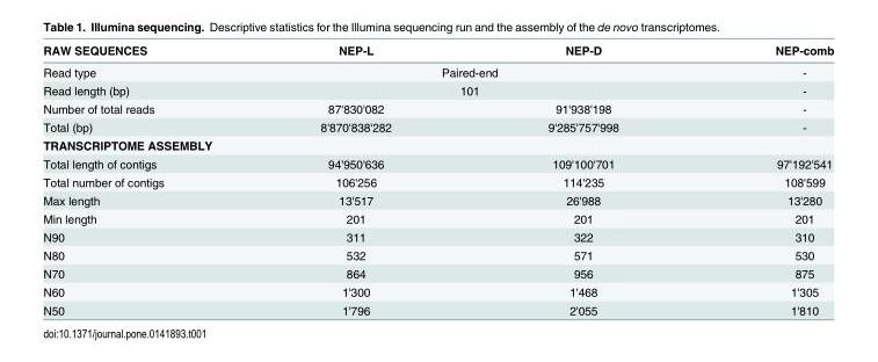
<table><thead><tr><td>RAW SEQUENCES</td><td>NEP-L</td><td>NEP-D</td><td>NEP-comb</td></tr></thead><tbody><tr><td>Read type</td><td colspan="2">Paired-end</td><td>-</td></tr><tr><td>Read length (bp)</td><td colspan="2">101</td><td>-</td></tr><tr><td>Number of total reads</td><td>87&#x27;830&#x27;082</td><td>91&#x27;938&#x27;198</td><td>-</td></tr><tr><td>Total (bp)</td><td>8&#x27;870&#x27;838&#x27;282</td><td>9&#x27;285&#x27;757&#x27;998</td><td>-</td></tr><tr><td colspan="4">TRANSCRIPTOME ASSEMBLY</td></tr><tr><td>Total length of contigs</td><td>94&#x27;950&#x27;636</td><td>109&#x27;100&#x27;701</td><td>97&#x27;192&#x27;541</td></tr><tr><td>Total number of contigs</td><td>106&#x27;256</td><td>114&#x27;235</td><td>108&#x27;599</td></tr><tr><td>Max length</td><td>13&#x27;517</td><td>26&#x27;988</td><td>13&#x27;280</td></tr><tr><td>Min length</td><td>201</td><td>201</td><td>201</td></tr><tr><td>N90</td><td>311</td><td>322</td><td>310</td></tr><tr><td>N80</td><td>532</td><td>571</td><td>530</td></tr><tr><td>N70</td><td>864</td><td>956</td><td>875</td></tr><tr><td>N60</td><td>1&#x27;300</td><td>1&#x27;468</td><td>1&#x27;305</td></tr><tr><td>N50</td><td>1&#x27;796</td><td>2&#x27;055</td><td>1&#x27;810</td></tr></tbody></table>